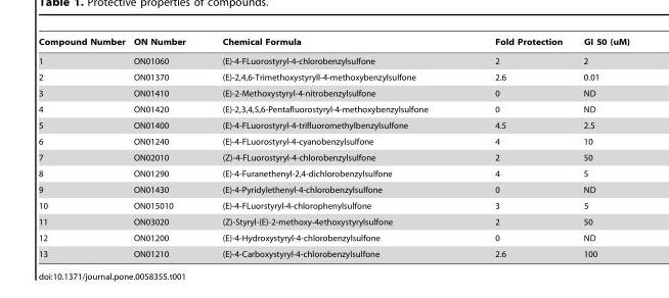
<table><thead><tr><td>Compound Number</td><td>ON Number</td><td>Chemical Formula</td><td>Fold Protection</td><td>GI 50 (uM)</td></tr></thead><tbody><tr><td>1</td><td>ON01060</td><td>(E)-4-FLuorostyryl-4-chlorobenzylsulfone</td><td>2</td><td>2</td></tr><tr><td>2</td><td>ON01370</td><td>(E)-2,4,6-Trimethoxystyryll-4-methoxybenzylsulfone</td><td>2.6</td><td>0.01</td></tr><tr><td>3</td><td>ON01410</td><td>(E)-2-Methoxystyryl-4-nitrobenzylsulfone</td><td>0</td><td>ND</td></tr><tr><td>4</td><td>ON01420</td><td>(E)-2,3,4,5,6-Pentafluorostyryl-4-methoxybenzylsulfone</td><td>0</td><td>ND</td></tr><tr><td>5</td><td>ON01400</td><td>(E)-4-FLuorostyryl-4-trifluoromethylbenzylsulfone</td><td>4.5</td><td>2.5</td></tr><tr><td>6</td><td>ON01240</td><td>(E)-4-FLuorostyryl-4-cyanobenzylsulfone</td><td>4</td><td>10</td></tr><tr><td>7</td><td>ON02010</td><td>(Z)-4-FLuorostyryl-4-chlorobenzylsulfone</td><td>2</td><td>50</td></tr><tr><td>8</td><td>ON01290</td><td>(E)-4-Furanethenyl-2,4-dichlorobenzylsulfone</td><td>4</td><td>5</td></tr><tr><td>9</td><td>ON01430</td><td>(E)-4-Pyridylethenyl-4-chlorobenzylsulfone</td><td>0</td><td>ND</td></tr><tr><td>10</td><td>ON015010</td><td>(E)-4-FLuorstyryl-4-chlorophenylsulfone</td><td>3</td><td>5</td></tr><tr><td>11</td><td>ON03020</td><td>(Z)-Styryl-(E)-2-methoxy-4ethoxystyrylsulfone</td><td>2</td><td>50</td></tr><tr><td>12</td><td>ON01200</td><td>(E)-4-Hydroxystyryl-4-chlorobenzylsulfone</td><td>0</td><td>ND</td></tr><tr><td>13</td><td>ON01210</td><td>(E)-4-Carboxystyryl-4-chlorobenzylsulfone</td><td>2.6</td><td>100</td></tr></tbody></table>